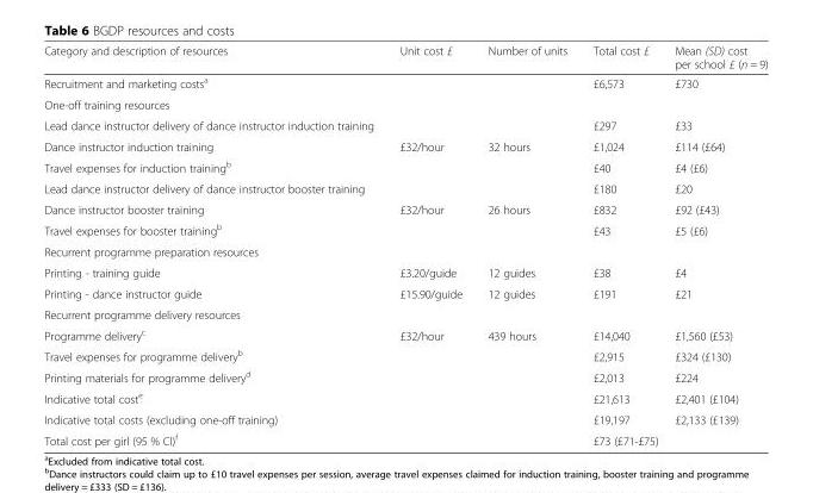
<table><thead><tr><td>Category and description of resources</td><td>Unit cost £</td><td>Number of units</td><td>Total cost £</td><td>Mean (SD) cost per school £ (n = 9)</td></tr></thead><tbody><tr><td>Recruitment and marketing costs<sup>a</sup></td><td></td><td></td><td>£6,573</td><td>£730</td></tr><tr><td colspan="5">One-off training resources</td></tr><tr><td>Lead dance instructor delivery of dance instructor induction training</td><td></td><td></td><td>£297</td><td>£33</td></tr><tr><td>Dance instructor induction training</td><td>£32/hour</td><td>32 hours</td><td>£1,024</td><td>£114 (£64)</td></tr><tr><td>Travel expenses for induction training<sup>b</sup></td><td></td><td></td><td>£40</td><td>£4 (£6)</td></tr><tr><td>Lead dance instructor delivery of dance instructor booster training</td><td></td><td></td><td>£180</td><td>£20</td></tr><tr><td>Dance instructor booster training</td><td>£32/hour</td><td>26 hours</td><td>£832</td><td>£92 (£43)</td></tr><tr><td>Travel expenses for booster training<sup>b</sup></td><td></td><td></td><td>£43</td><td>£5 (£6)</td></tr><tr><td colspan="5">Recurrent programme preparation resources</td></tr><tr><td>Printing - training guide</td><td>£3.20/guide</td><td>12 guides</td><td>£38</td><td>£4</td></tr><tr><td>Printing - dance instructor guide</td><td>£15.90/guide</td><td>12 guides</td><td>£191</td><td>£21</td></tr><tr><td colspan="5">Recurrent programme delivery resources</td></tr><tr><td>Programme delivery<sup>c</sup></td><td>£32/hour</td><td>439 hours</td><td>£14,040</td><td>£1,560 (£53)</td></tr><tr><td>Travel expenses for programme delivery<sup>b</sup></td><td></td><td></td><td>£2,915</td><td>£324 (£130)</td></tr><tr><td>Printing materials for programme delivery<sup>d</sup></td><td></td><td></td><td>£2,013</td><td>£224</td></tr><tr><td>Indicative total cost<sup>e</sup></td><td></td><td></td><td>£21,613</td><td>£2,401 (£104)</td></tr><tr><td>Indicative total costs (excluding one-off training)</td><td></td><td></td><td>£19,197</td><td>£2,133 (£139)</td></tr><tr><td colspan="3">Total cost per girl (95 % CI)<sup>f</sup></td><td colspan="2">£73 (£71-£75)</td></tr></tbody></table>